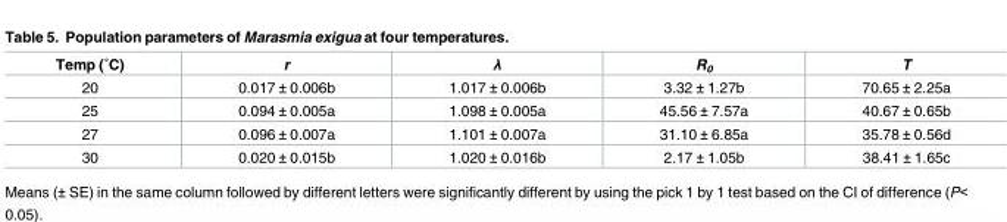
<table><thead><tr><td>Temp (˚C)</td><td>r</td><td>λ</td><td>R<sub>0</sub></td><td>T</td></tr></thead><tbody><tr><td>20</td><td>0.017 ± 0.006b</td><td>1.017 ± 0.006b</td><td>3.32 ± 1.27b</td><td>70.65 ± 2.25a</td></tr><tr><td>25</td><td>0.094 ± 0.005a</td><td>1.098 ± 0.005a</td><td>45.56 ± 7.57a</td><td>40.67 ± 0.65b</td></tr><tr><td>27</td><td>0.096 ± 0.007a</td><td>1.101 ± 0.007a</td><td>31.10 ± 6.85a</td><td>35.78 ± 0.56d</td></tr><tr><td>30</td><td>0.020 ± 0.015b</td><td>1.020 ± 0.016b</td><td>2.17 ± 1.05b</td><td>38.41 ± 1.65c</td></tr></tbody></table>